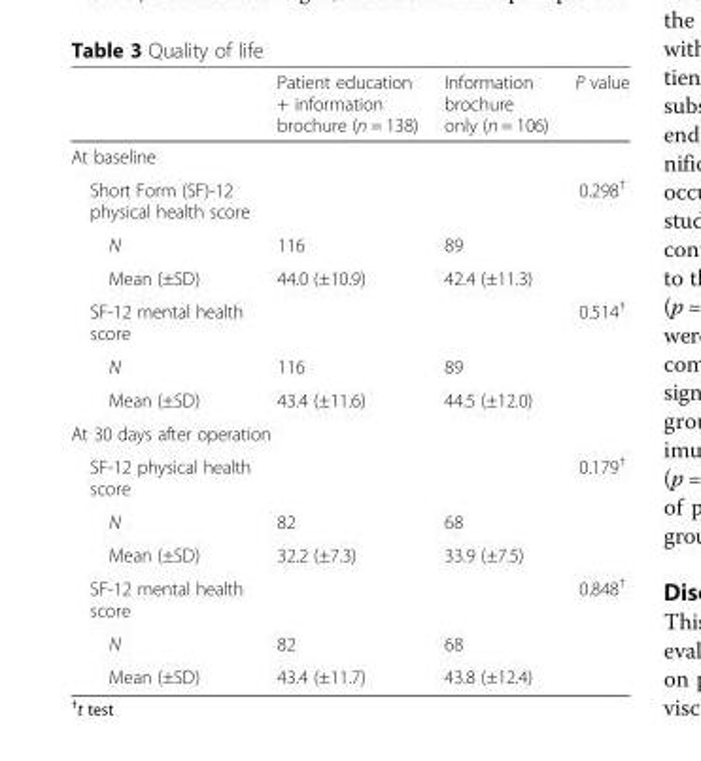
<table><thead><tr><td></td><td>Patient education + information brochure (n = 138)</td><td>Information brochure only (n = 106)</td><td>P value</td></tr></thead><tbody><tr><td colspan="4">At baseline</td></tr><tr><td>Short Form (SF)-12 physical health score</td><td></td><td></td><td>0.298<sup>†</sup></td></tr><tr><td>N</td><td>116</td><td>89</td><td></td></tr><tr><td>Mean (±SD)</td><td>44.0 (±10.9)</td><td>42.4 (±11.3)</td><td></td></tr><tr><td>SF-12 mental health score</td><td></td><td></td><td>0.514<sup>†</sup></td></tr><tr><td>N</td><td>116</td><td>89</td><td></td></tr><tr><td>Mean (±SD)</td><td>43.4 (±11.6)</td><td>44.5 (±12.0)</td><td></td></tr><tr><td colspan="4">At 30 days after operation</td></tr><tr><td>SF-12 physical health score</td><td></td><td></td><td>0.179<sup>†</sup></td></tr><tr><td>N</td><td>82</td><td>68</td><td></td></tr><tr><td>Mean (±SD)</td><td>32.2 (±7.3)</td><td>33.9 (±7.5)</td><td></td></tr><tr><td>SF-12 mental health score</td><td></td><td></td><td>0.848<sup>†</sup></td></tr><tr><td>N</td><td>82</td><td>68</td><td></td></tr><tr><td>Mean (±SD)</td><td>43.4 (±11.7)</td><td>43.8 (±12.4)</td><td></td></tr></tbody></table>